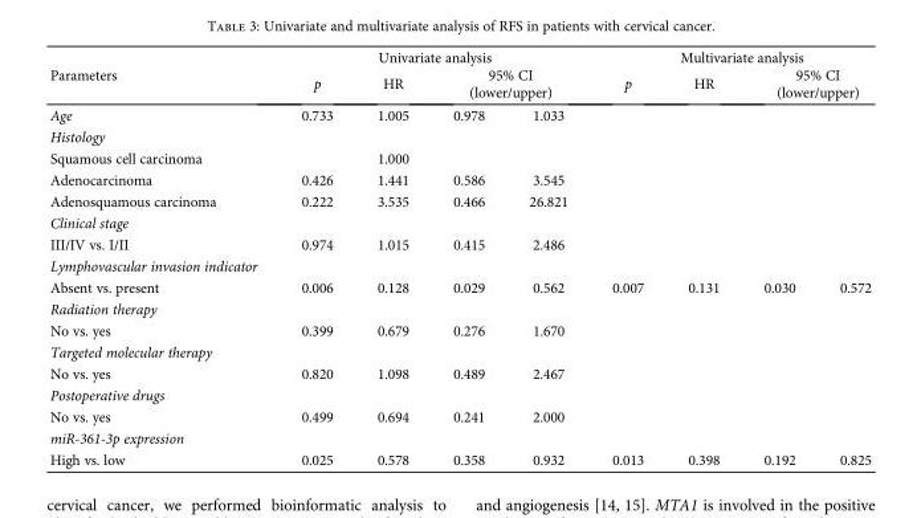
<table><thead><tr><td rowspan="3">Parameters Age</td><td colspan="4">Univariate analysis</td><td colspan="4">Multivariate analysis</td></tr><tr><td rowspan="2">p 0.733</td><td rowspan="2">HR 1.005</td><td colspan="2">95% CI (lower/upper)</td><td rowspan="2">p</td><td rowspan="2">HR</td><td colspan="2">95% CI (lower/upper)</td></tr><tr><td>0.978</td><td>1.033</td><td></td><td></td></tr></thead><tbody><tr><td colspan="9">Histology</td></tr><tr><td>Squamous cell carcinoma</td><td></td><td>1.000</td><td></td><td></td><td></td><td></td><td></td><td></td></tr><tr><td>Adenocarcinoma</td><td>0.426</td><td>1.441</td><td>0.586</td><td>3.545</td><td></td><td></td><td></td><td></td></tr><tr><td>Adenosquamous carcinoma</td><td>0.222</td><td>3.535</td><td>0.466</td><td>26.821</td><td></td><td></td><td></td><td></td></tr><tr><td colspan="9">Clinical stage</td></tr><tr><td>III/IV vs. I/II</td><td>0.974</td><td>1.015</td><td>0.415</td><td>2.486</td><td></td><td></td><td></td><td></td></tr><tr><td colspan="9">Lymphovascular invasion indicator</td></tr><tr><td>Absent vs. present</td><td>0.006</td><td>0.128</td><td>0.029</td><td>0.562</td><td>0.007</td><td>0.131</td><td>0.030</td><td>0.572</td></tr><tr><td colspan="9">Radiation therapy</td></tr><tr><td>No vs. yes</td><td>0.399</td><td>0.679</td><td>0.276</td><td>1.670</td><td></td><td></td><td></td><td></td></tr><tr><td colspan="9">Targeted molecular therapy</td></tr><tr><td>No vs. yes</td><td>0.820</td><td>1.098</td><td>0.489</td><td>2.467</td><td></td><td></td><td></td><td></td></tr><tr><td colspan="9">Postoperative drugs</td></tr><tr><td>No vs. yes</td><td>0.499</td><td>0.694</td><td>0.241</td><td>2.000</td><td></td><td></td><td></td><td></td></tr><tr><td colspan="9">miR-361-3p expression</td></tr><tr><td>High vs. low</td><td>0.025</td><td>0.578</td><td>0.358</td><td>0.932</td><td>0.013</td><td>0.398</td><td>0.192</td><td>0.825</td></tr></tbody></table>